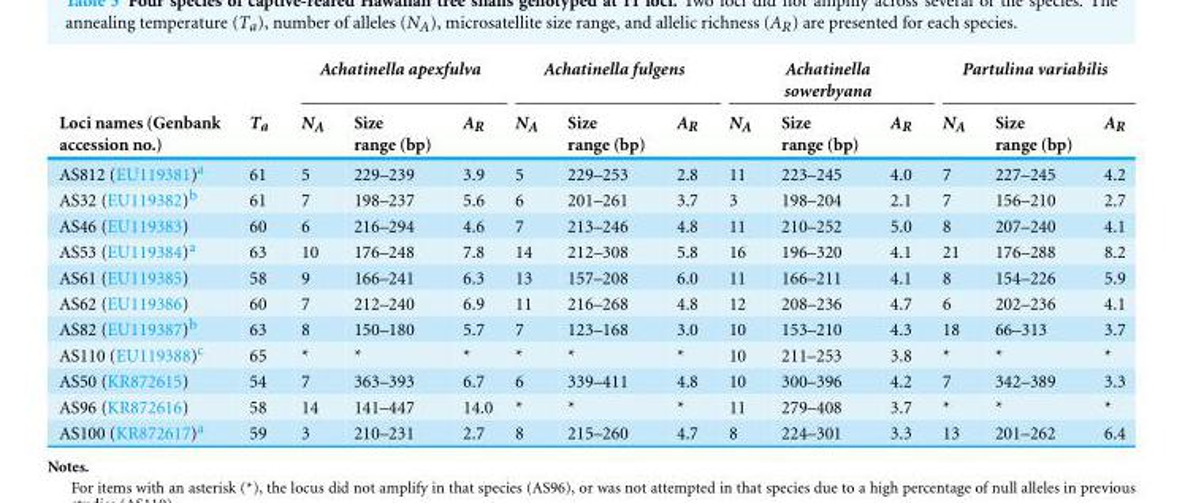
<table><thead><tr><td rowspan="2">Loci names (Genbank accession no.)</td><td rowspan="2">T<sub>a</sub></td><td colspan="3">Achatinella apexfulva</td><td colspan="3">Achatinella fulgens</td><td colspan="3">Achatinella sowerbyana</td><td colspan="3">Partulina variabilis</td></tr><tr><td>N<sub>A</sub></td><td>Size range (bp)</td><td>A<sub>R</sub></td><td>N<sub>A</sub></td><td>Size range (bp)</td><td>A<sub>R</sub></td><td>N<sub>A</sub></td><td>Size range (bp)</td><td>A<sub>R</sub></td><td>N<sub>A</sub></td><td>Size range (bp)</td><td>A<sub>R</sub></td></tr></thead><tbody><tr><td>AS812 (EU119381)<sup>a</sup></td><td>61</td><td>5</td><td>229–239</td><td>3.9</td><td>5</td><td>229–253</td><td>2.8</td><td>11</td><td>223–245</td><td>4.0</td><td>7</td><td>227–245</td><td>4.2</td></tr><tr><td>AS32 (EU119382)<sup>b</sup></td><td>61</td><td>7</td><td>198–237</td><td>5.6</td><td>6</td><td>201–261</td><td>3.7</td><td>3</td><td>198–204</td><td>2.1</td><td>7</td><td>156–210</td><td>2.7</td></tr><tr><td>AS46 (EU119383)</td><td>60</td><td>6</td><td>216–294</td><td>4.6</td><td>7</td><td>213–246</td><td>4.8</td><td>11</td><td>210–252</td><td>5.0</td><td>8</td><td>207–240</td><td>4.1</td></tr><tr><td>AS53 (EU119384)<sup>a</sup></td><td>63</td><td>10</td><td>176–248</td><td>7.8</td><td>14</td><td>212–308</td><td>5.8</td><td>16</td><td>196–320</td><td>4.1</td><td>21</td><td>176–288</td><td>8.2</td></tr><tr><td>AS61 (EU119385)</td><td>58</td><td>9</td><td>166–241</td><td>6.3</td><td>13</td><td>157–208</td><td>6.0</td><td>11</td><td>166–211</td><td>4.1</td><td>8</td><td>154–226</td><td>5.9</td></tr><tr><td>AS62 (EU119386)</td><td>60</td><td>7</td><td>212–240</td><td>6.9</td><td>11</td><td>216–268</td><td>4.8</td><td>12</td><td>208–236</td><td>4.7</td><td>6</td><td>202–236</td><td>4.1</td></tr><tr><td>AS82 (EU119387)<sup>b</sup></td><td>63</td><td>8</td><td>150–180</td><td>5.7</td><td>7</td><td>123–168</td><td>3.0</td><td>10</td><td>153–210</td><td>4.3</td><td>18</td><td>66–313</td><td>3.7</td></tr><tr><td>AS110 (EU119388)<sup>c</sup></td><td>65</td><td>*</td><td>*</td><td>*</td><td>*</td><td>*</td><td>*</td><td>10</td><td>211–253</td><td>3.8</td><td>*</td><td>*</td><td>*</td></tr><tr><td>AS50 (KR872615)</td><td>54</td><td>7</td><td>363–393</td><td>6.7</td><td>6</td><td>339–411</td><td>4.8</td><td>10</td><td>300–396</td><td>4.2</td><td>7</td><td>342–389</td><td>3.3</td></tr><tr><td>AS96 (KR872616)</td><td>58</td><td>14</td><td>141–447</td><td>14.0</td><td>*</td><td>*</td><td>*</td><td>11</td><td>279–408</td><td>3.7</td><td>*</td><td>*</td><td>*</td></tr><tr><td>AS100 (KR872617)<sup>a</sup></td><td>59</td><td>3</td><td>210–231</td><td>2.7</td><td>8</td><td>215–260</td><td>4.7</td><td>8</td><td>224–301</td><td>3.3</td><td>13</td><td>201–262</td><td>6.4</td></tr></tbody></table>